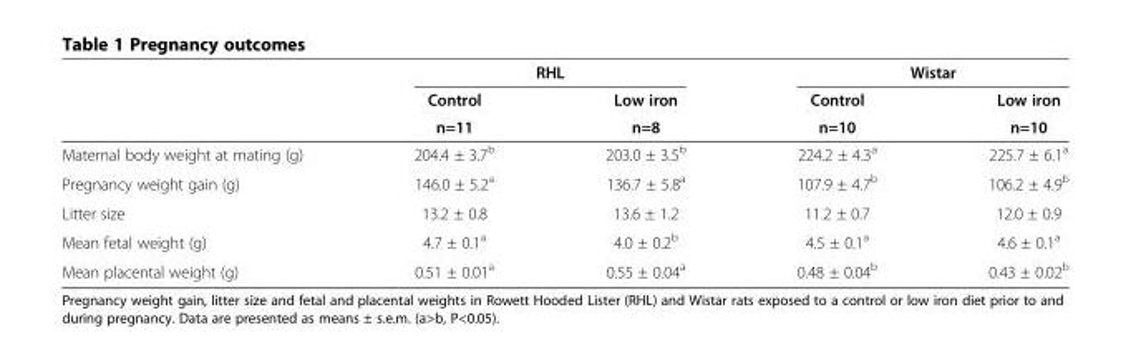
<table><thead><tr><td rowspan="3"></td><td colspan="2">RHL</td><td colspan="2">Wistar</td></tr><tr><td rowspan="2">Control n=11</td><td rowspan="2">Low iron n=8</td><td rowspan="2">Control n=10</td><td rowspan="2">Low iron n=10</td></tr><tr></tr></thead><tbody><tr><td>Maternal body weight at mating (g)</td><td>204.4 ± 3.7<sup>b</sup></td><td>203.0 ± 3.5<sup>b</sup></td><td>224.2 ± 4.3<sup>a</sup></td><td>225.7 ± 6.1<sup>a</sup></td></tr><tr><td>Pregnancy weight gain (g)</td><td>146.0 ± 5.2<sup>a</sup></td><td>136.7 ± 5.8<sup>a</sup></td><td>107.9 ± 4.7<sup>b</sup></td><td>106.2 ± 4.9<sup>b</sup></td></tr><tr><td>Litter size</td><td>13.2 ± 0.8</td><td>13.6 ± 1.2</td><td>11.2 ± 0.7</td><td>12.0 ± 0.9</td></tr><tr><td>Mean fetal weight (g)</td><td>4.7 ± 0.1<sup>a</sup></td><td>4.0 ± 0.2<sup>b</sup></td><td>4.5 ± 0.1<sup>a</sup></td><td>4.6 ± 0.1<sup>a</sup></td></tr><tr><td>Mean placental weight (g)</td><td>0.51 ± 0.01<sup>a</sup></td><td>0.55 ± 0.04<sup>a</sup></td><td>0.48 ± 0.04<sup>b</sup></td><td>0.43 ± 0.02<sup>b</sup></td></tr></tbody></table>